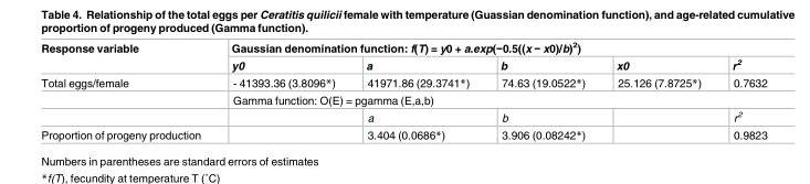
<table><thead><tr><td rowspan="2">Response variable</td><td colspan="5">Gaussian denomination function: f(T) = y0 + a.exp(−0.5((x − x0)/b)<sup>2</sup>)</td></tr><tr><td>y0</td><td>a</td><td>b</td><td>x0</td><td>r<sup>2</sup></td></tr></thead><tbody><tr><td rowspan="3">Total eggs/female</td><td>- 41393.36 (3.8096*)</td><td>41971.86 (29.3741*)</td><td>74.63 (19.0522*)</td><td>25.126 (7.8725*)</td><td>0.7632</td></tr><tr><td colspan="5">Gamma function: O(E) = pgamma (E,a,b)</td></tr><tr><td></td><td>a</td><td>b</td><td></td><td>r<sup>2</sup></td></tr><tr><td>Proportion of progeny production</td><td></td><td>3.404 (0.0686*)</td><td>3.906 (0.08242*)</td><td></td><td>0.9823</td></tr></tbody></table>